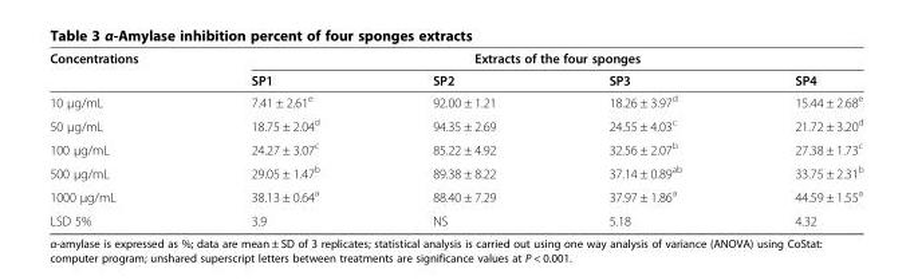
<table><thead><tr><td rowspan="2">Concentrations</td><td colspan="4">Extracts of the four sponges</td></tr><tr><td>SP1</td><td>SP2</td><td>SP3</td><td>SP4</td></tr></thead><tbody><tr><td>10 μg/mL</td><td>7.41 ± 2.61<sup>e</sup></td><td>92.00 ± 1.21</td><td>18.26 ± 3.97<sup>d</sup></td><td>15.44 ± 2.68<sup>e</sup></td></tr><tr><td>50 μg/mL</td><td>18.75 ± 2.04<sup>d</sup></td><td>94.35 ± 2.69</td><td>24.55 ± 4.03<sup>c</sup></td><td>21.72 ± 3.20<sup>d</sup></td></tr><tr><td>100 μg/mL</td><td>24.27 ± 3.07<sup>c</sup></td><td>85.22 ± 4.92</td><td>32.56 ± 2.07<sup>b</sup></td><td>27.38 ± 1.73<sup>c</sup></td></tr><tr><td>500 μg/mL</td><td>29.05 ± 1.47<sup>b</sup></td><td>89.38 ± 8.22</td><td>37.14 ± 0.89<sup>ab</sup></td><td>33.75 ± 2.31<sup>b</sup></td></tr><tr><td>1000 μg/mL</td><td>38.13 ± 0.64<sup>a</sup></td><td>88.40 ± 7.29</td><td>37.97 ± 1.86<sup>a</sup></td><td>44.59 ± 1.55<sup>a</sup></td></tr><tr><td>LSD 5%</td><td>3.9</td><td>NS</td><td>5.18</td><td>4.32</td></tr></tbody></table>